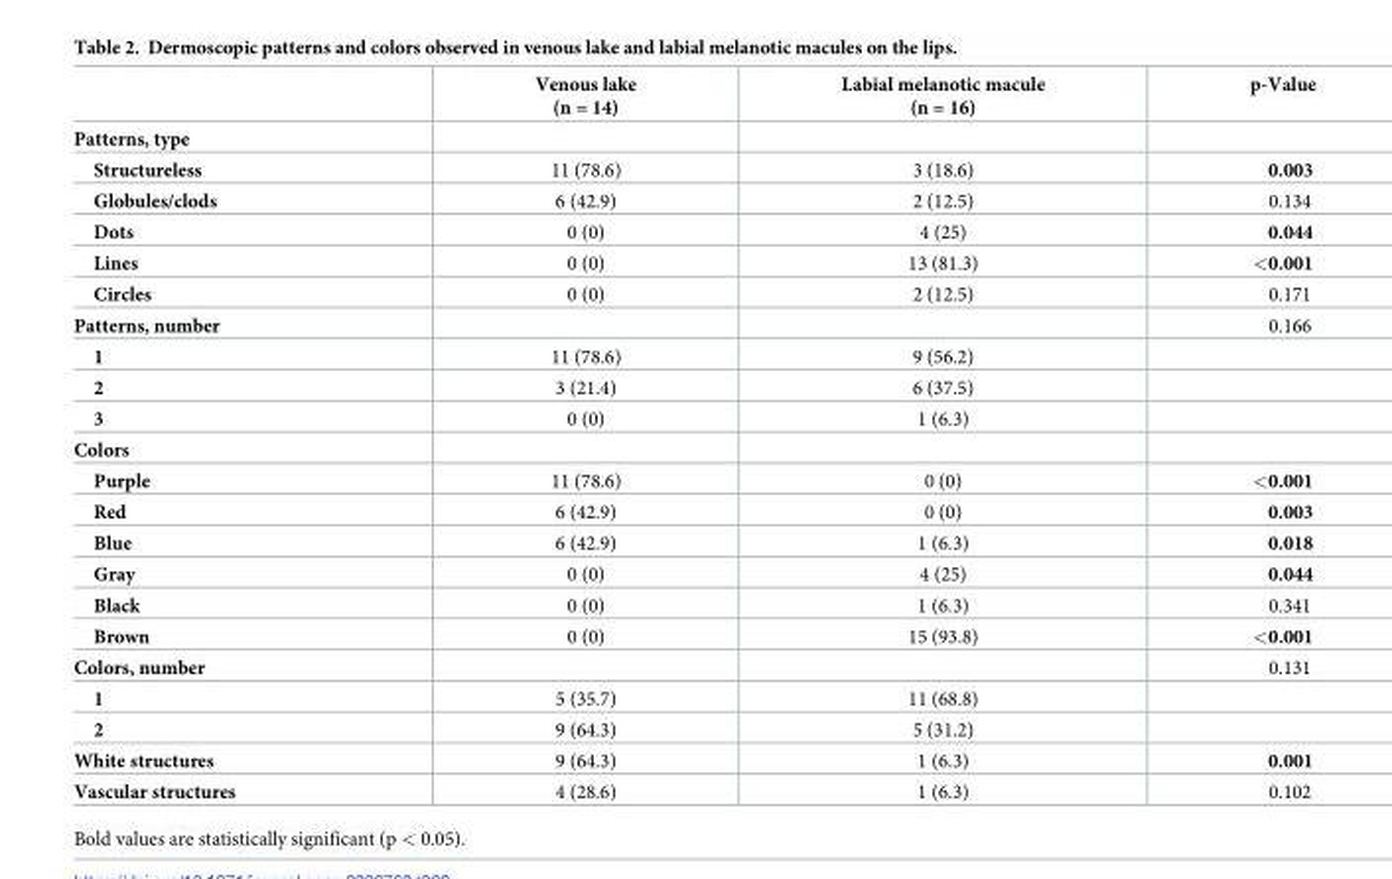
<table><thead><tr><td></td><td>Venous lake (n = 14)</td><td>Labial melanotic macule (n = 16)</td><td>p-Value</td></tr></thead><tbody><tr><td colspan="4">Patterns, type</td></tr><tr><td>Structureless</td><td>11 (78.6)</td><td>3 (18.6)</td><td>0.003</td></tr><tr><td>Globules/clods</td><td>6 (42.9)</td><td>2 (12.5)</td><td>0.134</td></tr><tr><td>Dots</td><td>0 (0)</td><td>4 (25)</td><td>0.044</td></tr><tr><td>Lines</td><td>0 (0)</td><td>13 (81.3)</td><td>&lt;0.001</td></tr><tr><td>Circles</td><td>0 (0)</td><td>2 (12.5)</td><td>0.171</td></tr><tr><td>Patterns, number</td><td></td><td></td><td>0.166</td></tr><tr><td>1</td><td>11 (78.6)</td><td>9 (56.2)</td><td></td></tr><tr><td>2</td><td>3 (21.4)</td><td>6 (37.5)</td><td></td></tr><tr><td>3</td><td>0 (0)</td><td>1 (6.3)</td><td></td></tr><tr><td colspan="4">Colors</td></tr><tr><td>Purple</td><td>11 (78.6)</td><td>0 (0)</td><td>&lt;0.001</td></tr><tr><td>Red</td><td>6 (42.9)</td><td>0 (0)</td><td>0.003</td></tr><tr><td>Blue</td><td>6 (42.9)</td><td>1 (6.3)</td><td>0.018</td></tr><tr><td>Gray</td><td>0 (0)</td><td>4 (25)</td><td>0.044</td></tr><tr><td>Black</td><td>0 (0)</td><td>1 (6.3)</td><td>0.341</td></tr><tr><td>Brown</td><td>0 (0)</td><td>15 (93.8)</td><td>&lt;0.001</td></tr><tr><td>Colors, number</td><td></td><td></td><td>0.131</td></tr><tr><td>1</td><td>5 (35.7)</td><td>11 (68.8)</td><td></td></tr><tr><td>2</td><td>9 (64.3)</td><td>5 (31.2)</td><td></td></tr><tr><td>White structures</td><td>9 (64.3)</td><td>1 (6.3)</td><td>0.001</td></tr><tr><td>Vascular structures</td><td>4 (28.6)</td><td>1 (6.3)</td><td>0.102</td></tr></tbody></table>